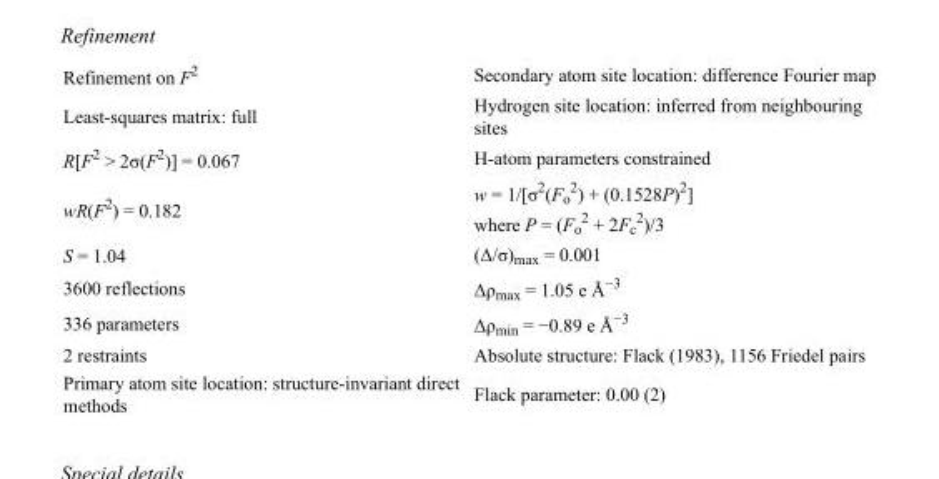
<table><tbody><tr><td>Refinement on F<sup>2</sup></td><td>Secondary atom site location: difference Fourier map</td></tr><tr><td>Least-squares matrix: full</td><td>Hydrogen site location: inferred from neighbouring sites</td></tr><tr><td>R[F<sup>2</sup> &gt; 2σ(F<sup>2</sup>)] = 0.067</td><td>H-atom parameters constrained</td></tr><tr><td>wR(F<sup>2</sup>) = 0.182</td><td>w = 1/[σ<sup>2</sup>(F<sub>o</sub> <sup>2</sup>) + (0.1528P)<sup>2</sup>] where P = (F<sub>o</sub> <sup>2</sup> + 2F<sub>c</sub> <sup>2</sup>)/3</td></tr><tr><td>S = 1.04</td><td>(Δ/σ)<sub>max</sub> = 0.001</td></tr><tr><td>3600 reflections</td><td>Δρ<sub>max</sub> = 1.05 e Å<sup>−3</sup></td></tr><tr><td>336 parameters</td><td>Δρmin = −0.89 e Å−3</td></tr><tr><td>2 restraints</td><td>Absolute structure: Flack (1983), 1156 Friedel pairs</td></tr><tr><td>Primary atom site location: structure-invariant direct methods</td><td>Flack parameter: 0.00 (2)</td></tr></tbody></table>